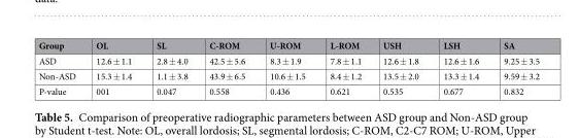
<table><thead><tr><td>Group</td><td>OL</td><td>SL</td><td>C-ROM</td><td>U-ROM</td><td>L-ROM</td><td>USH</td><td>LSH</td><td>SA</td></tr></thead><tbody><tr><td>ASD</td><td>12.6 ± 1.1</td><td>2.8 ± 4.0</td><td>42.5 ± 5.6</td><td>8.3 ± 1.9</td><td>7.8 ± 1.1</td><td>12.6 ± 1.8</td><td>12.6 ± 1.6</td><td>9.25 ± 3.5</td></tr><tr><td>Non-ASD</td><td>15.3 ± 1.4</td><td>1.1 ± 3.8</td><td>43.9 ± 6.5</td><td>10.6 ± 1.5</td><td>8.4 ± 1.2</td><td>13.5 ± 2.0</td><td>13.3 ± 1.4</td><td>9.59 ± 3.2</td></tr><tr><td>P-value</td><td>001</td><td>0.047</td><td>0.558</td><td>0.436</td><td>0.621</td><td>0.535</td><td>0.677</td><td>0.832</td></tr></tbody></table>